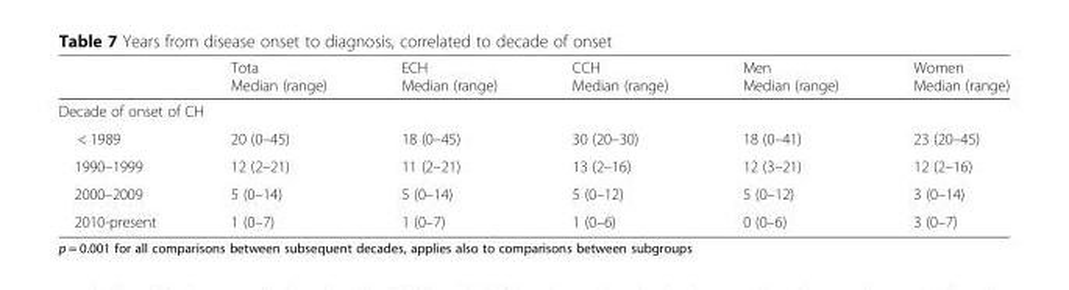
<table><thead><tr><td></td><td>Tota Median (range)</td><td>ECH Median (range)</td><td>CCH Median (range)</td><td>Men Median (range)</td><td>Women Median (range)</td></tr></thead><tbody><tr><td colspan="6">Decade of onset of CH</td></tr><tr><td>&lt; 1989</td><td>20 (0–45)</td><td>18 (0–45)</td><td>30 (20–30)</td><td>18 (0–41)</td><td>23 (20–45)</td></tr><tr><td>1990–1999</td><td>12 (2–21)</td><td>11 (2–21)</td><td>13 (2–16)</td><td>12 (3–21)</td><td>12 (2–16)</td></tr><tr><td>2000–2009</td><td>5 (0–14)</td><td>5 (0–14)</td><td>5 (0–12)</td><td>5 (0–12)</td><td>3 (0–14)</td></tr><tr><td>2010-present</td><td>1 (0–7)</td><td>1 (0–7)</td><td>1 (0–6)</td><td>0 (0–6)</td><td>3 (0–7)</td></tr></tbody></table>